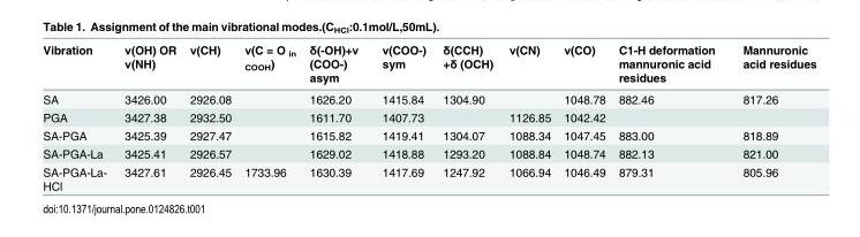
<table><thead><tr><td>Vibration</td><td>ν(OH) OR ν(NH)</td><td>ν(CH)</td><td>ν(C = O <sub>in COOH</sub>)</td><td>δ(-OH)+ν (COO-) asym</td><td>ν(COO-) sym</td><td>δ(CCH) +δ (OCH)</td><td>ν(CN)</td><td>ν(CO)</td><td>C1-H deformation mannuronic acid residues</td><td>Mannuronic acid residues</td></tr></thead><tbody><tr><td>SA</td><td>3426.00</td><td>2926.08</td><td></td><td>1626.20</td><td>1415.84</td><td>1304.90</td><td></td><td>1048.78</td><td>882.46</td><td>817.26</td></tr><tr><td>PGA</td><td>3427.38</td><td>2932.50</td><td></td><td>1611.70</td><td>1407.73</td><td></td><td>1126.85</td><td>1042.42</td><td></td><td></td></tr><tr><td>SA-PGA</td><td>3425.39</td><td>2927.47</td><td></td><td>1615.82</td><td>1419.41</td><td>1304.07</td><td>1088.34</td><td>1047.45</td><td>883.00</td><td>818.89</td></tr><tr><td>SA-PGA-La</td><td>3425.41</td><td>2926.57</td><td></td><td>1629.02</td><td>1418.88</td><td>1293.20</td><td>1088.84</td><td>1048.74</td><td>882.13</td><td>821.00</td></tr><tr><td>SA-PGA-La- HCl</td><td>3427.61</td><td>2926.45</td><td>1733.96</td><td>1630.39</td><td>1417.69</td><td>1247.92</td><td>1066.94</td><td>1046.49</td><td>879.31</td><td>805.96</td></tr></tbody></table>